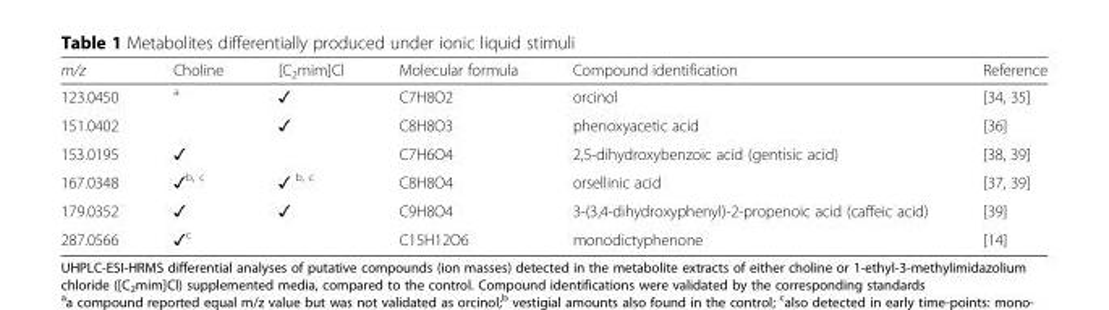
<table><thead><tr><td>m/z</td><td>Choline</td><td>[C<sub>2</sub>mim]Cl</td><td>Molecular formula</td><td>Compound identification</td><td>Reference</td></tr></thead><tbody><tr><td>123.0450</td><td><sup>a</sup></td><td>✓</td><td>C7H8O2</td><td>orcinol</td><td>[34, 35]</td></tr><tr><td>151.0402</td><td></td><td>✓</td><td>C8H8O3</td><td>phenoxyacetic acid</td><td>[36]</td></tr><tr><td>153.0195</td><td>✓</td><td></td><td>C7H6O4</td><td>2,5-dihydroxybenzoic acid (gentisic acid)</td><td>[38, 39]</td></tr><tr><td>167.0348</td><td>✓<sup>b, c</sup></td><td>✓ <sup>b, c</sup></td><td>C8H8O4</td><td>orsellinic acid</td><td>[37, 39]</td></tr><tr><td>179.0352</td><td>✓</td><td>✓</td><td>C9H8O4</td><td>3-(3,4-dihydroxyphenyl)-2-propenoic acid (caffeic acid)</td><td>[39]</td></tr><tr><td>287.0566</td><td>✓<sup>c</sup></td><td></td><td>C15H12O6</td><td>monodictyphenone</td><td>[14]</td></tr></tbody></table>